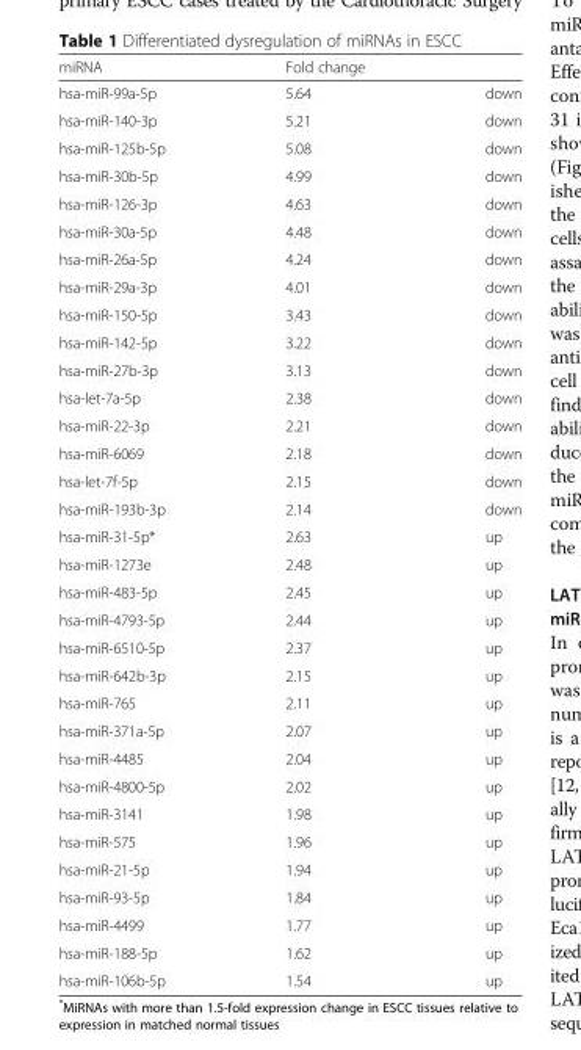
<table><thead><tr><td>miRNA</td><td>Fold change</td><td></td></tr></thead><tbody><tr><td>hsa-miR-99a-5p</td><td>5.64</td><td>down</td></tr><tr><td>hsa-miR-140-3p</td><td>5.21</td><td>down</td></tr><tr><td>hsa-miR-125b-5p</td><td>5.08</td><td>down</td></tr><tr><td>hsa-miR-30b-5p</td><td>4.99</td><td>down</td></tr><tr><td>hsa-miR-126-3p</td><td>4.63</td><td>down</td></tr><tr><td>hsa-miR-30a-5p</td><td>4.48</td><td>down</td></tr><tr><td>hsa-miR-26a-5p</td><td>4.24</td><td>down</td></tr><tr><td>hsa-miR-29a-3p</td><td>4.01</td><td>down</td></tr><tr><td>hsa-miR-150-5p</td><td>3.43</td><td>down</td></tr><tr><td>hsa-miR-142-5p</td><td>3.22</td><td>down</td></tr><tr><td>hsa-miR-27b-3p</td><td>3.13</td><td>down</td></tr><tr><td>hsa-let-7a-5p</td><td>2.38</td><td>down</td></tr><tr><td>hsa-miR-22-3p</td><td>2.21</td><td>down</td></tr><tr><td>hsa-miR-6069</td><td>2.18</td><td>down</td></tr><tr><td>hsa-let-7f-5p</td><td>2.15</td><td>down</td></tr><tr><td>hsa-miR-193b-3p</td><td>2.14</td><td>down</td></tr><tr><td>hsa-miR-31-5p*</td><td>2.63</td><td>up</td></tr><tr><td>hsa-miR-1273e</td><td>2.48</td><td>up</td></tr><tr><td>hsa-miR-483-5p</td><td>2.45</td><td>up</td></tr><tr><td>hsa-miR-4793-5p</td><td>2.44</td><td>up</td></tr><tr><td>hsa-miR-6510-5p</td><td>2.37</td><td>up</td></tr><tr><td>hsa-miR-642b-3p</td><td>2.15</td><td>up</td></tr><tr><td>hsa-miR-765</td><td>2.11</td><td>up</td></tr><tr><td>hsa-miR-371a-5p</td><td>2.07</td><td>up</td></tr><tr><td>hsa-miR-4485</td><td>2.04</td><td>up</td></tr><tr><td>hsa-miR-4800-5p</td><td>2.02</td><td>up</td></tr><tr><td>hsa-miR-3141</td><td>1.98</td><td>up</td></tr><tr><td>hsa-miR-575</td><td>1.96</td><td>up</td></tr><tr><td>hsa-miR-21-5p</td><td>1.94</td><td>up</td></tr><tr><td>hsa-miR-93-5p</td><td>1.84</td><td>up</td></tr><tr><td>hsa-miR-4499</td><td>1.77</td><td>up</td></tr><tr><td>hsa-miR-188-5p</td><td>1.62</td><td>up</td></tr><tr><td>hsa-miR-106b-5p</td><td>1.54</td><td>up</td></tr></tbody></table>